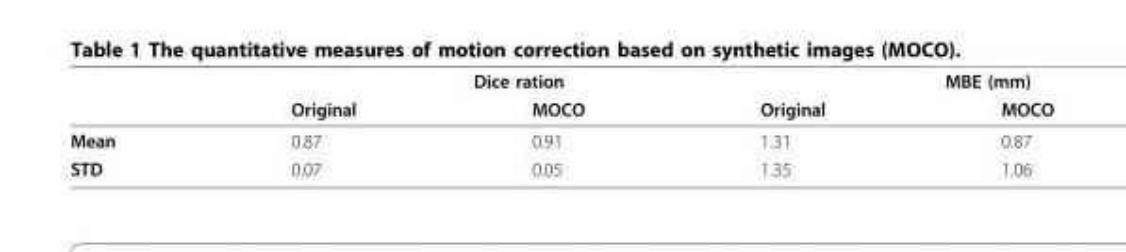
<table><thead><tr><td rowspan="2"></td><td colspan="2">Dice ration</td><td colspan="2">MBE (mm)</td></tr><tr><td>Original</td><td>MOCO</td><td>Original</td><td>MOCO</td></tr></thead><tbody><tr><td>Mean</td><td>0.87</td><td>0.91</td><td>1.31</td><td>0.87</td></tr><tr><td>STD</td><td>0.07</td><td>0.05</td><td>1.35</td><td>1.06</td></tr></tbody></table>